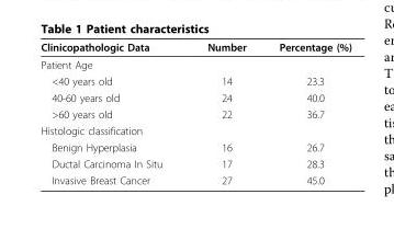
<table><thead><tr><td>Clinicopathologic Data</td><td>Number</td><td>Percentage (%)</td></tr></thead><tbody><tr><td colspan="3">Patient Age</td></tr><tr><td>&lt;40 years old</td><td>14</td><td>23.3</td></tr><tr><td>40-60 years old</td><td>24</td><td>40.0</td></tr><tr><td>&gt;60 years old</td><td>22</td><td>36.7</td></tr><tr><td colspan="3">Histologic classification</td></tr><tr><td>Benign Hyperplasia</td><td>16</td><td>26.7</td></tr><tr><td>Ductal Carcinoma In Situ</td><td>17</td><td>28.3</td></tr><tr><td>Invasive Breast Cancer</td><td>27</td><td>45.0</td></tr></tbody></table>